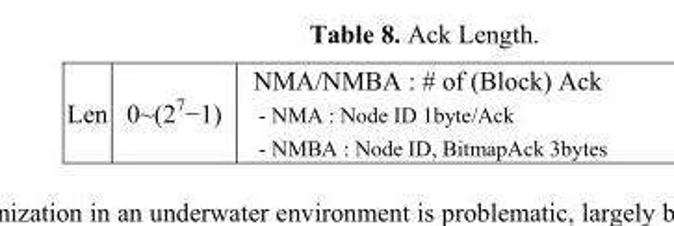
<table><tbody><tr><td>Len</td><td>0~(27−1)</td><td>NMA/NMBA : # of (Block) Ack - NMA : Node ID 1byte/Ack - NMBA : Node ID, BitmapAck 3bytes</td></tr></tbody></table>